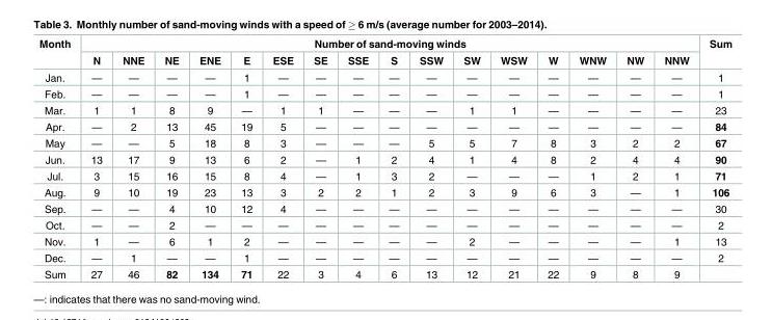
<table><thead><tr><td rowspan="2">Month</td><td colspan="16">Number of sand-moving winds</td><td rowspan="2">Sum</td></tr><tr><td>N</td><td>NNE</td><td>NE</td><td>ENE</td><td>E</td><td>ESE</td><td>SE</td><td>SSE</td><td>S</td><td>SSW</td><td>SW</td><td>WSW</td><td>W</td><td>WNW</td><td>NW</td><td>NNW</td></tr></thead><tbody><tr><td>Jan.</td><td>—</td><td>—</td><td>—</td><td>—</td><td>1</td><td>—</td><td>—</td><td>—</td><td>—</td><td>—</td><td>—</td><td>—</td><td>—</td><td>—</td><td>—</td><td>—</td><td>1</td></tr><tr><td>Feb.</td><td>—</td><td>—</td><td>—</td><td>—</td><td>1</td><td>—</td><td>—</td><td>—</td><td>—</td><td>—</td><td>—</td><td>—</td><td>—</td><td>—</td><td>—</td><td>—</td><td>1</td></tr><tr><td>Mar.</td><td>1</td><td>1</td><td>8</td><td>9</td><td>—</td><td>1</td><td>1</td><td>—</td><td>—</td><td>—</td><td>1</td><td>1</td><td>—</td><td>—</td><td>—</td><td>—</td><td>23</td></tr><tr><td>Apr.</td><td>—</td><td>2</td><td>13</td><td>45</td><td>19</td><td>5</td><td>—</td><td>—</td><td>—</td><td>—</td><td>—</td><td>—</td><td>—</td><td>—</td><td>—</td><td>—</td><td>84</td></tr><tr><td>May</td><td>—</td><td>—</td><td>5</td><td>18</td><td>8</td><td>3</td><td>—</td><td>—</td><td>—</td><td>5</td><td>5</td><td>7</td><td>8</td><td>3</td><td>2</td><td>2</td><td>67</td></tr><tr><td>Jun.</td><td>13</td><td>17</td><td>9</td><td>13</td><td>6</td><td>2</td><td>—</td><td>1</td><td>2</td><td>4</td><td>1</td><td>4</td><td>8</td><td>2</td><td>4</td><td>4</td><td>90</td></tr><tr><td>Jul.</td><td>3</td><td>15</td><td>16</td><td>15</td><td>8</td><td>4</td><td>—</td><td>1</td><td>3</td><td>2</td><td>—</td><td>—</td><td>—</td><td>1</td><td>2</td><td>1</td><td>71</td></tr><tr><td>Aug.</td><td>9</td><td>10</td><td>19</td><td>23</td><td>13</td><td>3</td><td>2</td><td>2</td><td>1</td><td>2</td><td>3</td><td>9</td><td>6</td><td>3</td><td>—</td><td>1</td><td>106</td></tr><tr><td>Sep.</td><td>—</td><td>—</td><td>4</td><td>10</td><td>12</td><td>4</td><td>—</td><td>—</td><td>—</td><td>—</td><td>—</td><td>—</td><td>—</td><td>—</td><td>—</td><td>—</td><td>30</td></tr><tr><td>Oct.</td><td>—</td><td>—</td><td>2</td><td>—</td><td>—</td><td>—</td><td>—</td><td>—</td><td>—</td><td>—</td><td>—</td><td>—</td><td>—</td><td>—</td><td>—</td><td>—</td><td>2</td></tr><tr><td>Nov.</td><td>1</td><td>—</td><td>6</td><td>1</td><td>2</td><td>—</td><td>—</td><td>—</td><td>—</td><td>—</td><td>2</td><td>—</td><td>—</td><td>—</td><td>—</td><td>1</td><td>13</td></tr><tr><td>Dec.</td><td>—</td><td>1</td><td>—</td><td>—</td><td>1</td><td>—</td><td>—</td><td>—</td><td>—</td><td>—</td><td>—</td><td>—</td><td>—</td><td>—</td><td>—</td><td>—</td><td>2</td></tr><tr><td>Sum</td><td>27</td><td>46</td><td>82</td><td>134</td><td>71</td><td>22</td><td>3</td><td>4</td><td>6</td><td>13</td><td>12</td><td>21</td><td>22</td><td>9</td><td>8</td><td>9</td><td></td></tr></tbody></table>